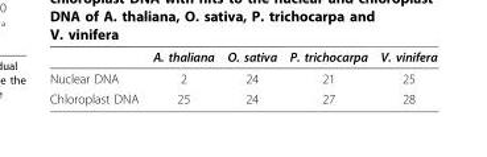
<table><thead><tr><td></td><td>A. thaliana</td><td>O. sativa</td><td>P. trichocarpa</td><td>V. vinifera</td></tr></thead><tbody><tr><td>Nuclear DNA</td><td>2</td><td>24</td><td>21</td><td>25</td></tr><tr><td>Chloroplast DNA</td><td>25</td><td>24</td><td>27</td><td>28</td></tr></tbody></table>